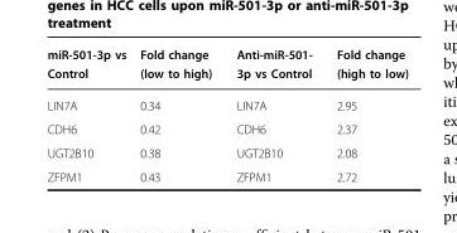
<table><thead><tr><td>miR-501-3p vs Control</td><td>Fold change (low to high)</td><td>Anti-miR-501- 3p vs Control</td><td>Fold change (high to low)</td></tr></thead><tbody><tr><td>LIN7A</td><td>0.34</td><td>LIN7A</td><td>2.95</td></tr><tr><td>CDH6</td><td>0.42</td><td>CDH6</td><td>2.37</td></tr><tr><td>UGT2B10</td><td>0.38</td><td>UGT2B10</td><td>2.08</td></tr><tr><td>ZFPM1</td><td>0.43</td><td>ZFPM1</td><td>2.72</td></tr></tbody></table>